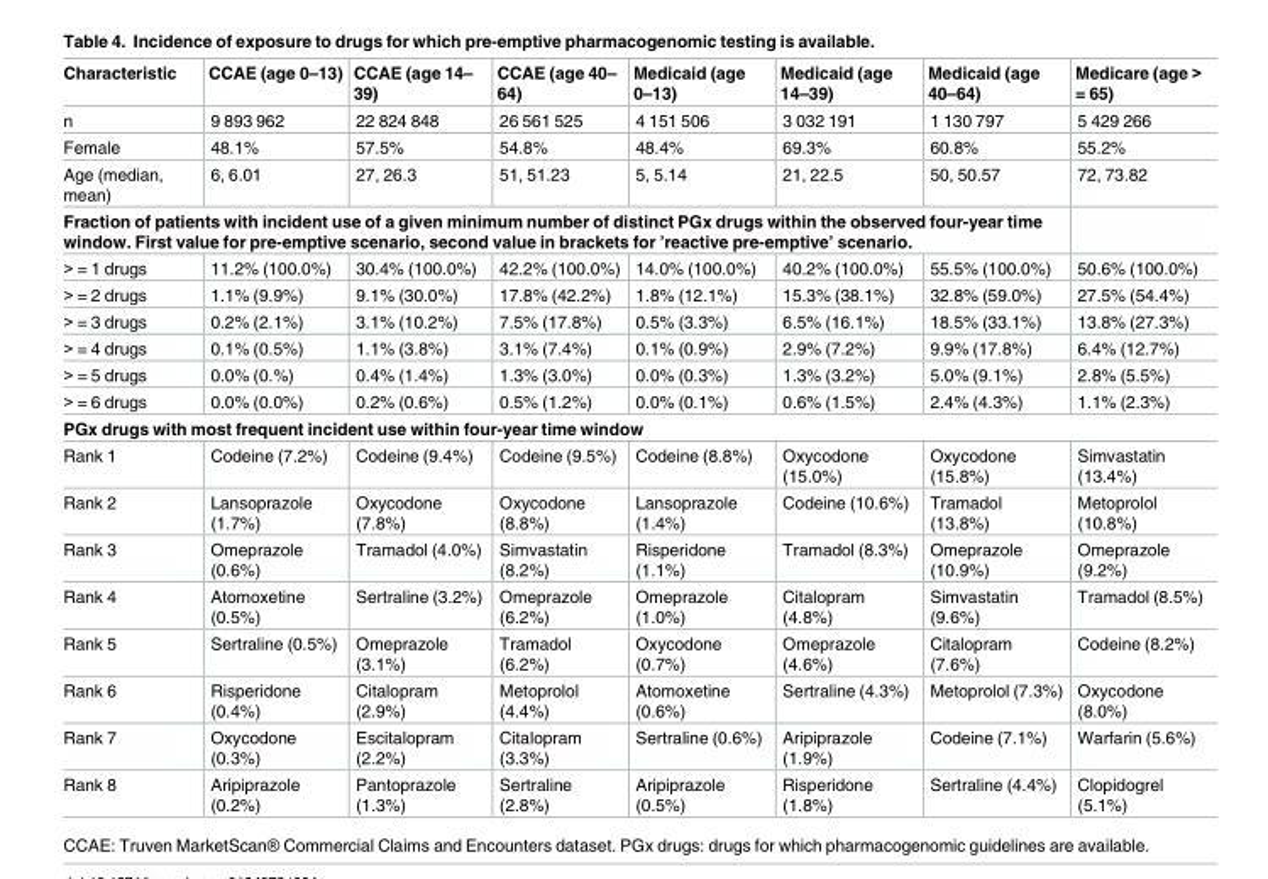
<table><thead><tr><td>Characteristic</td><td>CCAE (age 0–13)</td><td>CCAE (age 14– 39)</td><td>CCAE (age 40– 64)</td><td>Medicaid (age 0–13)</td><td>Medicaid (age 14–39)</td><td>Medicaid (age 40–64)</td><td>Medicare (age &gt; = 65)</td></tr></thead><tbody><tr><td>n</td><td>9 893 962</td><td>22 824 848</td><td>26 561 525</td><td>4 151 506</td><td>3 032 191</td><td>1 130 797</td><td>5 429 266</td></tr><tr><td>Female</td><td>48.1%</td><td>57.5%</td><td>54.8%</td><td>48.4%</td><td>69.3%</td><td>60.8%</td><td>55.2%</td></tr><tr><td>Age (median, mean)</td><td>6, 6.01</td><td>27, 26.3</td><td>51, 51.23</td><td>5, 5.14</td><td>21, 22.5</td><td>50, 50.57</td><td>72, 73.82</td></tr><tr><td colspan="8">Fraction of patients with incident use of a given minimum number of distinct PGx drugs within the observed four-year time window. First value for pre-emptive scenario, second value in brackets for ’reactive pre-emptive’ scenario.</td></tr><tr><td>&gt; = 1 drugs</td><td>11.2% (100.0%)</td><td>30.4% (100.0%)</td><td>42.2% (100.0%)</td><td>14.0% (100.0%)</td><td>40.2% (100.0%)</td><td>55.5% (100.0%)</td><td>50.6% (100.0%)</td></tr><tr><td>&gt; = 2 drugs</td><td>1.1% (9.9%)</td><td>9.1% (30.0%)</td><td>17.8% (42.2%)</td><td>1.8% (12.1%)</td><td>15.3% (38.1%)</td><td>32.8% (59.0%)</td><td>27.5% (54.4%)</td></tr><tr><td>&gt; = 3 drugs</td><td>0.2% (2.1%)</td><td>3.1% (10.2%)</td><td>7.5% (17.8%)</td><td>0.5% (3.3%)</td><td>6.5% (16.1%)</td><td>18.5% (33.1%)</td><td>13.8% (27.3%)</td></tr><tr><td>&gt; = 4 drugs</td><td>0.1% (0.5%)</td><td>1.1% (3.8%)</td><td>3.1% (7.4%)</td><td>0.1% (0.9%)</td><td>2.9% (7.2%)</td><td>9.9% (17.8%)</td><td>6.4% (12.7%)</td></tr><tr><td>&gt; = 5 drugs</td><td>0.0% (0.%)</td><td>0.4% (1.4%)</td><td>1.3% (3.0%)</td><td>0.0% (0.3%)</td><td>1.3% (3.2%)</td><td>5.0% (9.1%)</td><td>2.8% (5.5%)</td></tr><tr><td>&gt; = 6 drugs</td><td>0.0% (0.0%)</td><td>0.2% (0.6%)</td><td>0.5% (1.2%)</td><td>0.0% (0.1%)</td><td>0.6% (1.5%)</td><td>2.4% (4.3%)</td><td>1.1% (2.3%)</td></tr><tr><td colspan="8">PGx drugs with most frequent incident use within four-year time window</td></tr><tr><td>Rank 1</td><td>Codeine (7.2%)</td><td>Codeine (9.4%)</td><td>Codeine (9.5%)</td><td>Codeine (8.8%)</td><td>Oxycodone (15.0%)</td><td>Oxycodone (15.8%)</td><td>Simvastatin (13.4%)</td></tr><tr><td>Rank 2</td><td>Lansoprazole (1.7%)</td><td>Oxycodone (7.8%)</td><td>Oxycodone (8.8%)</td><td>Lansoprazole (1.4%)</td><td>Codeine (10.6%)</td><td>Tramadol (13.8%)</td><td>Metoprolol (10.8%)</td></tr><tr><td>Rank 3</td><td>Omeprazole (0.6%)</td><td>Tramadol (4.0%)</td><td>Simvastatin (8.2%)</td><td>Risperidone (1.1%)</td><td>Tramadol (8.3%)</td><td>Omeprazole (10.9%)</td><td>Omeprazole (9.2%)</td></tr><tr><td>Rank 4</td><td>Atomoxetine (0.5%)</td><td>Sertraline (3.2%)</td><td>Omeprazole (6.2%)</td><td>Omeprazole (1.0%)</td><td>Citalopram (4.8%)</td><td>Simvastatin (9.6%)</td><td>Tramadol (8.5%)</td></tr><tr><td>Rank 5</td><td>Sertraline (0.5%)</td><td>Omeprazole (3.1%)</td><td>Tramadol (6.2%)</td><td>Oxycodone (0.7%)</td><td>Omeprazole (4.6%)</td><td>Citalopram (7.6%)</td><td>Codeine (8.2%)</td></tr><tr><td>Rank 6</td><td>Risperidone (0.4%)</td><td>Citalopram (2.9%)</td><td>Metoprolol (4.4%)</td><td>Atomoxetine (0.6%)</td><td>Sertraline (4.3%)</td><td>Metoprolol (7.3%)</td><td>Oxycodone (8.0%)</td></tr><tr><td>Rank 7</td><td>Oxycodone (0.3%)</td><td>Escitalopram (2.2%)</td><td>Citalopram (3.3%)</td><td>Sertraline (0.6%)</td><td>Aripiprazole (1.9%)</td><td>Codeine (7.1%)</td><td>Warfarin (5.6%)</td></tr><tr><td>Rank 8</td><td>Aripiprazole (0.2%)</td><td>Pantoprazole (1.3%)</td><td>Sertraline (2.8%)</td><td>Aripiprazole (0.5%)</td><td>Risperidone (1.8%)</td><td>Sertraline (4.4%)</td><td>Clopidogrel (5.1%)</td></tr></tbody></table>